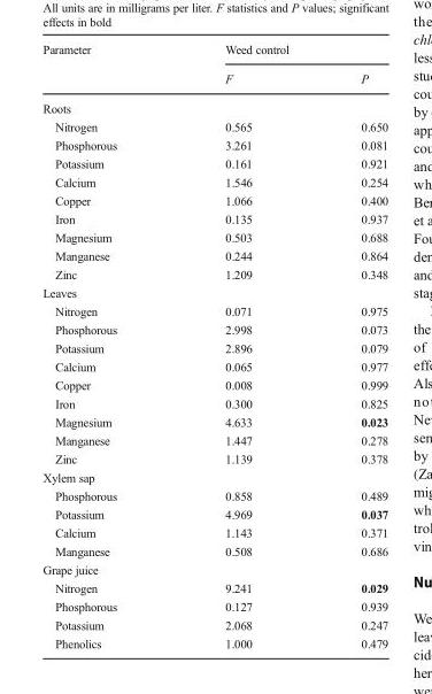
<table><thead><tr><td rowspan="2">Parameter</td><td colspan="2">Weed control</td></tr><tr><td>F</td><td>P</td></tr></thead><tbody><tr><td colspan="3">Roots</td></tr><tr><td>Nitrogen</td><td>0.565</td><td>0.650</td></tr><tr><td>Phosphorous</td><td>3.261</td><td>0.081</td></tr><tr><td>Potassium</td><td>0.161</td><td>0.921</td></tr><tr><td>Calcium</td><td>1.546</td><td>0.254</td></tr><tr><td>Copper</td><td>1.066</td><td>0.400</td></tr><tr><td>Iron</td><td>0.135</td><td>0.937</td></tr><tr><td>Magnesium</td><td>0.503</td><td>0.688</td></tr><tr><td>Manganese</td><td>0.244</td><td>0.864</td></tr><tr><td>Zinc</td><td>1.209</td><td>0.348</td></tr><tr><td colspan="3">Leaves</td></tr><tr><td>Nitrogen</td><td>0.071</td><td>0.975</td></tr><tr><td>Phosphorous</td><td>2.998</td><td>0.073</td></tr><tr><td>Potassium</td><td>2.896</td><td>0.079</td></tr><tr><td>Calcium</td><td>0.065</td><td>0.977</td></tr><tr><td>Copper</td><td>0.008</td><td>0.999</td></tr><tr><td>Iron</td><td>0.300</td><td>0.825</td></tr><tr><td>Magnesium</td><td>4.633</td><td>0.023</td></tr><tr><td>Manganese</td><td>1.447</td><td>0.278</td></tr><tr><td>Zinc</td><td>1.139</td><td>0.378</td></tr><tr><td colspan="3">Xylem sap</td></tr><tr><td>Phosphorous</td><td>0.858</td><td>0.489</td></tr><tr><td>Potassium</td><td>4.969</td><td>0.037</td></tr><tr><td>Calcium</td><td>1.143</td><td>0.371</td></tr><tr><td>Manganese</td><td>0.508</td><td>0.686</td></tr><tr><td colspan="3">Grape juice</td></tr><tr><td>Nitrogen</td><td>9.241</td><td>0.029</td></tr><tr><td>Phosphorous</td><td>0.127</td><td>0.939</td></tr><tr><td>Potassium</td><td>2.068</td><td>0.247</td></tr><tr><td>Phenolics</td><td>1.000</td><td>0.479</td></tr></tbody></table>